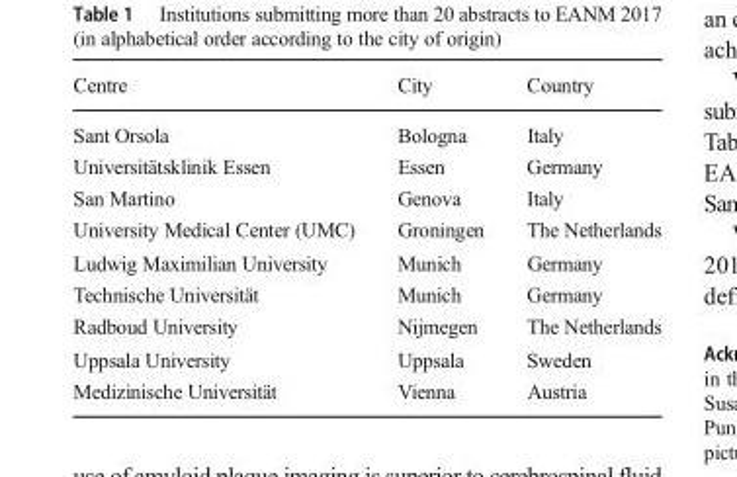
<table><thead><tr><td>Centre</td><td>City</td><td>Country</td></tr></thead><tbody><tr><td>Sant Orsola</td><td>Bologna</td><td>Italy</td></tr><tr><td>Universitätsklinik Essen</td><td>Essen</td><td>Germany</td></tr><tr><td>San Martino</td><td>Genova</td><td>Italy</td></tr><tr><td>University Medical Center (UMC)</td><td>Groningen</td><td>The Netherlands</td></tr><tr><td>Ludwig Maximilian University</td><td>Munich</td><td>Germany</td></tr><tr><td>Technische Universität</td><td>Munich</td><td>Germany</td></tr><tr><td>Radboud University</td><td>Nijmegen</td><td>The Netherlands</td></tr><tr><td>Uppsala University</td><td>Uppsala</td><td>Sweden</td></tr><tr><td>Medizinische Universität</td><td>Vienna</td><td>Austria</td></tr></tbody></table>